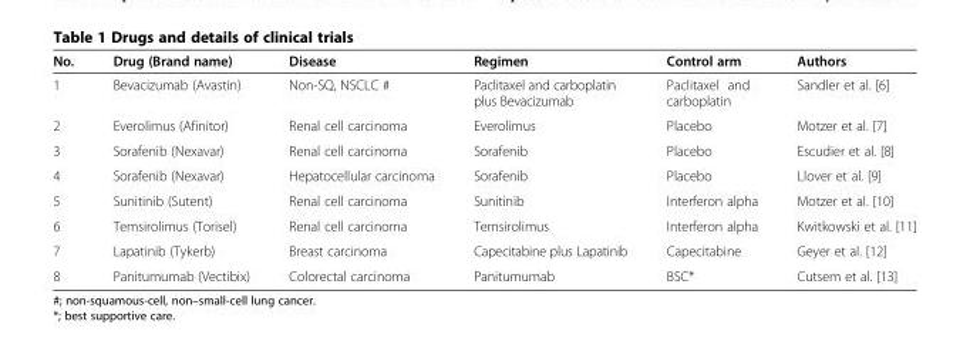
<table><thead><tr><td>No.</td><td>Drug (Brand name)</td><td>Disease</td><td>Regimen</td><td>Control arm</td><td>Authors</td></tr></thead><tbody><tr><td>1</td><td>Bevacizumab (Avastin)</td><td>Non-SQ, NSCLC #</td><td>Paclitaxel and carboplatin plus Bevacizumab</td><td>Paclitaxel and carboplatin</td><td>Sandler et al. [6]</td></tr><tr><td>2</td><td>Everolimus (Afinitor)</td><td>Renal cell carcinoma</td><td>Everolimus</td><td>Placebo</td><td>Motzer et al. [7]</td></tr><tr><td>3</td><td>Sorafenib (Nexavar)</td><td>Renal cell carcinoma</td><td>Sorafenib</td><td>Placebo</td><td>Escudier et al. [8]</td></tr><tr><td>4</td><td>Sorafenib (Nexavar)</td><td>Hepatocellular carcinoma</td><td>Sorafenib</td><td>Placebo</td><td>Llover et al. [9]</td></tr><tr><td>5</td><td>Sunitinib (Sutent)</td><td>Renal cell carcinoma</td><td>Sunitinib</td><td>Interferon alpha</td><td>Motzer et al. [10]</td></tr><tr><td>6</td><td>Temsirolimus (Torisel)</td><td>Renal cell carcinoma</td><td>Temsirolimus</td><td>Interferon alpha</td><td>Kwitkowski et al. [11]</td></tr><tr><td>7</td><td>Lapatinib (Tykerb)</td><td>Breast carcinoma</td><td>Capecitabine plus Lapatinib</td><td>Capecitabine</td><td>Geyer et al. [12]</td></tr><tr><td>8</td><td>Panitumumab (Vectibix)</td><td>Colorectal carcinoma</td><td>Panitumumab</td><td>BSC*</td><td>Cutsem et al. [13]</td></tr></tbody></table>